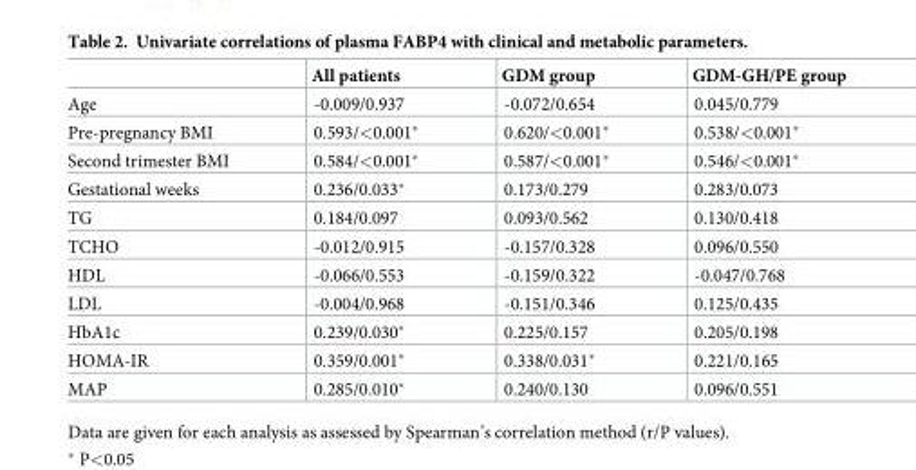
<table><thead><tr><td></td><td>All patients</td><td>GDM group</td><td>GDM-GH/PE group</td></tr></thead><tbody><tr><td>Age</td><td>-0.009/0.937</td><td>-0.072/0.654</td><td>0.045/0.779</td></tr><tr><td>Pre-pregnancy BMI</td><td>0.593/&lt;0.001*</td><td>0.620/&lt;0.001*</td><td>0.538/&lt;0.001*</td></tr><tr><td>Second trimester BMI</td><td>0.584/&lt;0.001*</td><td>0.587/&lt;0.001*</td><td>0.546/&lt;0.001*</td></tr><tr><td>Gestational weeks</td><td>0.236/0.033*</td><td>0.173/0.279</td><td>0.283/0.073</td></tr><tr><td>TG</td><td>0.184/0.097</td><td>0.093/0.562</td><td>0.130/0.418</td></tr><tr><td>TCHO</td><td>-0.012/0.915</td><td>-0.157/0.328</td><td>0.096/0.550</td></tr><tr><td>HDL</td><td>-0.066/0.553</td><td>-0.159/0.322</td><td>-0.047/0.768</td></tr><tr><td>LDL</td><td>-0.004/0.968</td><td>-0.151/0.346</td><td>0.125/0.435</td></tr><tr><td>HbA1c</td><td>0.239/0.030*</td><td>0.225/0.157</td><td>0.205/0.198</td></tr><tr><td>HOMA-IR</td><td>0.359/0.001*</td><td>0.338/0.031*</td><td>0.221/0.165</td></tr><tr><td>MAP</td><td>0.285/0.010*</td><td>0.240/0.130</td><td>0.096/0.551</td></tr></tbody></table>